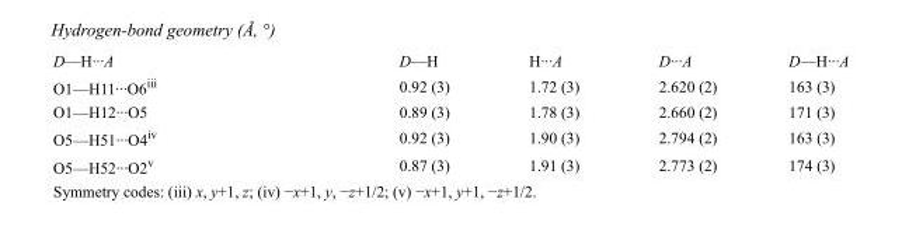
<table><tbody><tr><td>D—H···A</td><td>D—H</td><td>H···A</td><td>D···A</td><td>D—H···A</td></tr><tr><td>O1—H11···O6<sup>iii</sup></td><td>0.92 (3)</td><td>1.72 (3)</td><td>2.620 (2)</td><td>163 (3)</td></tr><tr><td>O1—H12···O5</td><td>0.89 (3)</td><td>1.78 (3)</td><td>2.660 (2)</td><td>171 (3)</td></tr><tr><td>O5—H51···O4<sup>iv</sup></td><td>0.92 (3)</td><td>1.90 (3)</td><td>2.794 (2)</td><td>163 (3)</td></tr><tr><td>O5—H52···O2<sup>v</sup></td><td>0.87 (3)</td><td>1.91 (3)</td><td>2.773 (2)</td><td>174 (3)</td></tr></tbody></table>